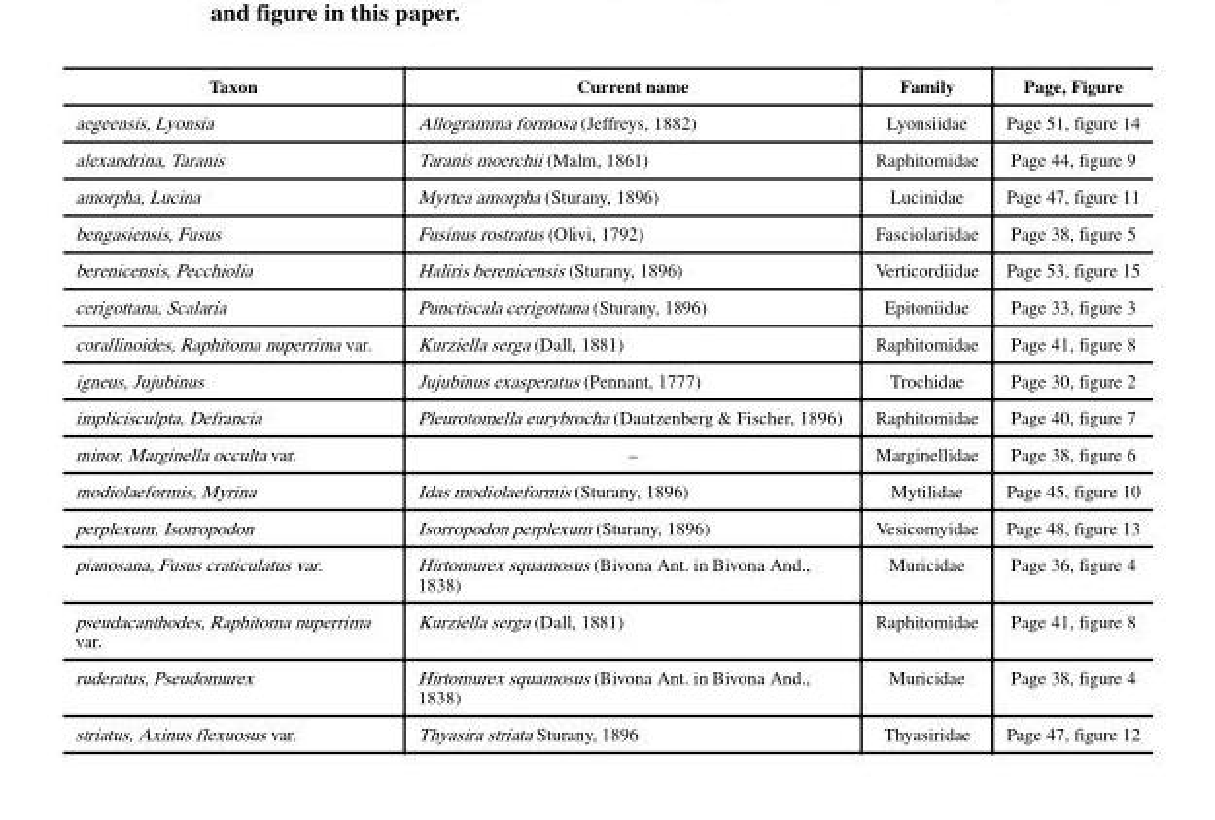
<table><thead><tr><td>Taxon</td><td>Current name</td><td>Family</td><td>Page, Figure</td></tr></thead><tbody><tr><td>aegeensis, Lyonsia</td><td>Allogramma formosa (Jeffreys, 1882)</td><td>Lyonsiidae</td><td>Page 51, figure 14</td></tr><tr><td>alexandrina, Taranis</td><td>Taranis moerchii (Malm, 1861)</td><td>Raphitomidae</td><td>Page 44, figure 9</td></tr><tr><td>amorpha, Lucina</td><td>Myrtea amorpha (Sturany, 1896)</td><td>Lucinidae</td><td>Page 47, figure 11</td></tr><tr><td>bengasiensis, Fusus</td><td>Fusinus rostratus (Olivi, 1792)</td><td>Fasciolariidae</td><td>Page 38, figure 5</td></tr><tr><td>berenicensis, Pecchiolia</td><td>Haliris berenicensis (Sturany, 1896)</td><td>Verticordiidae</td><td>Page 53, figure 15</td></tr><tr><td>cerigottana, Scalaria</td><td>Punctiscala cerigottana (Sturany, 1896)</td><td>Epitoniidae</td><td>Page 33, figure 3</td></tr><tr><td>corallinoides, Raphitoma nuperrima var.</td><td>Kurziella serga (Dall, 1881)</td><td>Raphitomidae</td><td>Page 41, figure 8</td></tr><tr><td>igneus, Jujubinus</td><td>Jujubinus exasperatus (Pennant, 1777)</td><td>Trochidae</td><td>Page 30, figure 2</td></tr><tr><td>implicisculpta, Defrancia</td><td>Pleurotomella eurybrocha (Dautzenberg &amp; Fischer, 1896)</td><td>Raphitomidae</td><td>Page 40, figure 7</td></tr><tr><td>minor, Marginella occulta var.</td><td>–</td><td>Marginellidae</td><td>Page 38, figure 6</td></tr><tr><td>modiolaeformis, Myrina</td><td>Idas modiolaeformis (Sturany, 1896)</td><td>Mytilidae</td><td>Page 45, figure 10</td></tr><tr><td>perplexum, Isorropodon</td><td>Isorropodon perplexum (Sturany, 1896)</td><td>Vesicomyidae</td><td>Page 48, figure 13</td></tr><tr><td>pianosana, Fusus craticulatus var.</td><td>Hirtomurex squamosus (Bivona Ant. in Bivona And., 1838)</td><td>Muricidae</td><td>Page 36, figure 4</td></tr><tr><td>pseudacanthodes, Raphitoma nuperrima var.</td><td>Kurziella serga (Dall, 1881)</td><td>Raphitomidae</td><td>Page 41, figure 8</td></tr><tr><td>ruderatus, Pseudomurex</td><td>Hirtomurex squamosus (Bivona Ant. in Bivona And., 1838)</td><td>Muricidae</td><td>Page 38, figure 4</td></tr><tr><td>striatus, Axinus flexuosus var.</td><td>Thyasira striata Sturany, 1896</td><td>Thyasiridae</td><td>Page 47, figure 12</td></tr></tbody></table>